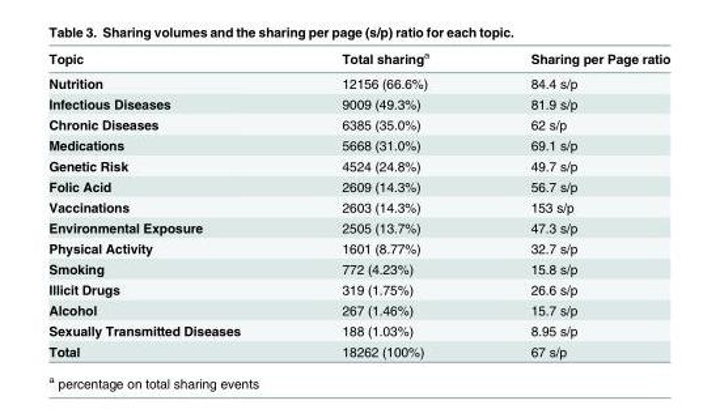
<table><thead><tr><td>Topic</td><td>Total sharing<sup>a</sup></td><td>Sharing per Page ratio</td></tr></thead><tbody><tr><td>Nutrition</td><td>12156 (66.6%)</td><td>84.4 s/p</td></tr><tr><td>Infectious Diseases</td><td>9009 (49.3%)</td><td>81.9 s/p</td></tr><tr><td>Chronic Diseases</td><td>6385 (35.0%)</td><td>62 s/p</td></tr><tr><td>Medications</td><td>5668 (31.0%)</td><td>69.1 s/p</td></tr><tr><td>Genetic Risk</td><td>4524 (24.8%)</td><td>49.7 s/p</td></tr><tr><td>Folic Acid</td><td>2609 (14.3%)</td><td>56.7 s/p</td></tr><tr><td>Vaccinations</td><td>2603 (14.3%)</td><td>153 s/p</td></tr><tr><td>Environmental Exposure</td><td>2505 (13.7%)</td><td>47.3 s/p</td></tr><tr><td>Physical Activity</td><td>1601 (8.77%)</td><td>32.7 s/p</td></tr><tr><td>Smoking</td><td>772 (4.23%)</td><td>15.8 s/p</td></tr><tr><td>Illicit Drugs</td><td>319 (1.75%)</td><td>26.6 s/p</td></tr><tr><td>Alcohol</td><td>267 (1.46%)</td><td>15.7 s/p</td></tr><tr><td>Sexually Transmitted Diseases</td><td>188 (1.03%)</td><td>8.95 s/p</td></tr><tr><td>Total</td><td>18262 (100%)</td><td>67 s/p</td></tr></tbody></table>